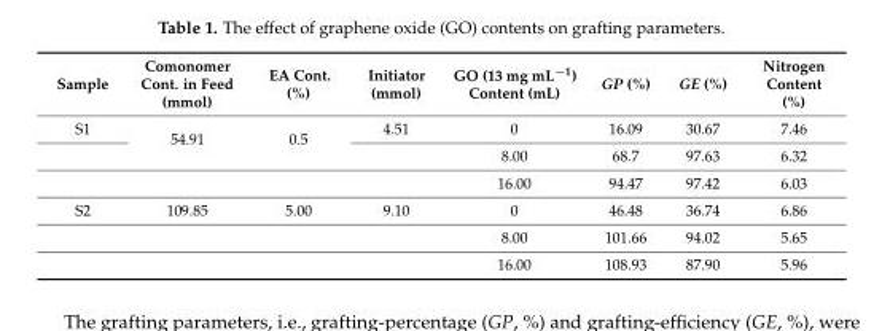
<table><thead><tr><td>Sample</td><td>Comonomer Cont. in Feed (mmol)</td><td>EA Cont. (%)</td><td>Initiator (mmol)</td><td>GO (13 mg mL<sup>−1</sup>) Content (mL)</td><td>GP (%)</td><td>GE (%)</td><td>Nitrogen Content (%)</td></tr></thead><tbody><tr><td rowspan="3">S1</td><td rowspan="2">54.91</td><td rowspan="2">0.5</td><td>4.51</td><td>0</td><td>16.09</td><td>30.67</td><td>7.46</td></tr><tr><td></td><td>8.00</td><td>68.7</td><td>97.63</td><td>6.32</td></tr><tr><td></td><td></td><td></td><td>16.00</td><td>94.47</td><td>97.42</td><td>6.03</td></tr><tr><td rowspan="3">S2</td><td>109.85</td><td>5.00</td><td>9.10</td><td>0</td><td>46.48</td><td>36.74</td><td>6.86</td></tr><tr><td></td><td></td><td></td><td>8.00</td><td>101.66</td><td>94.02</td><td>5.65</td></tr><tr><td></td><td></td><td></td><td>16.00</td><td>108.93</td><td>87.90</td><td>5.96</td></tr></tbody></table>